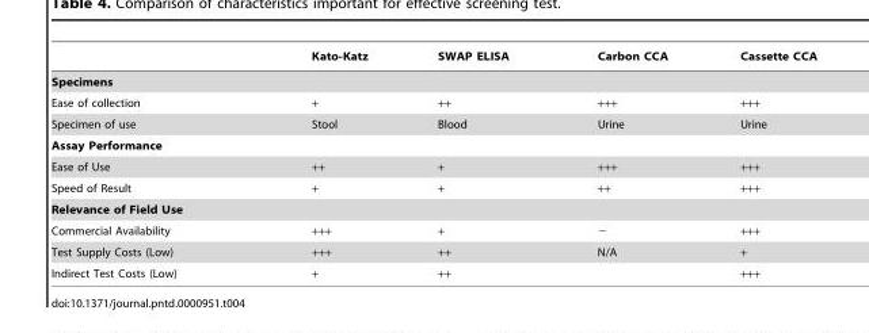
<table><thead><tr><td></td><td>Kato-Katz</td><td>SWAP ELISA</td><td>Carbon CCA</td><td>Cassette CCA</td></tr></thead><tbody><tr><td colspan="5">Specimens</td></tr><tr><td>Ease of collection</td><td>+</td><td>++</td><td>+++</td><td>+++</td></tr><tr><td>Specimen of use</td><td>Stool</td><td>Blood</td><td>Urine</td><td>Urine</td></tr><tr><td colspan="5">Assay Performance</td></tr><tr><td>Ease of Use</td><td>++</td><td>+</td><td>+++</td><td>+++</td></tr><tr><td>Speed of Result</td><td>+</td><td>+</td><td>++</td><td>+++</td></tr><tr><td colspan="5">Relevance of Field Use</td></tr><tr><td>Commercial Availability</td><td>+++</td><td>+</td><td>−</td><td>+++</td></tr><tr><td>Test Supply Costs (Low)</td><td>+++</td><td>++</td><td>N/A</td><td>+</td></tr><tr><td>Indirect Test Costs (Low)</td><td>+</td><td>++</td><td></td><td>+++</td></tr></tbody></table>